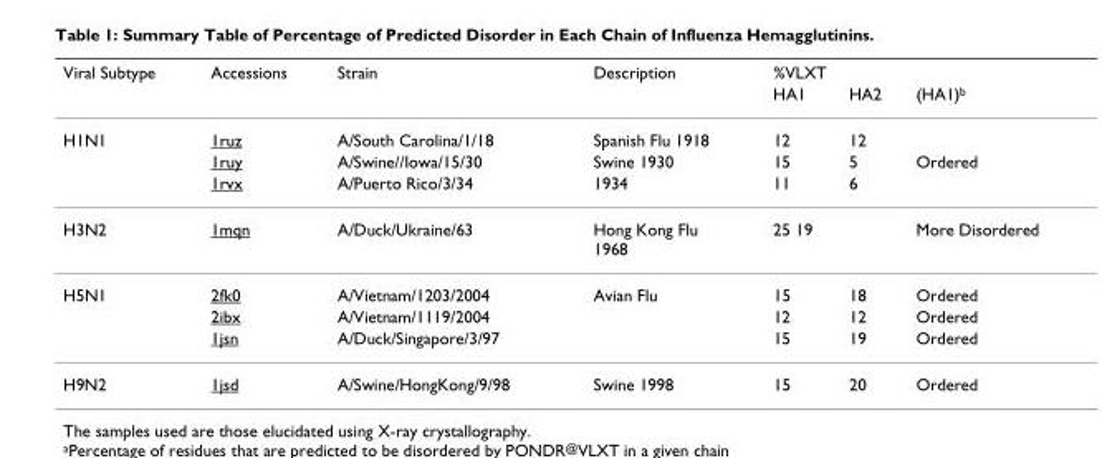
<table><thead><tr><td rowspan="2">Viral Subtype</td><td rowspan="2">Accessions</td><td rowspan="2">Strain</td><td rowspan="2">Description</td><td colspan="2">%VLXT</td><td rowspan="2">(HA1)<sup>b</sup></td></tr><tr><td>HA1</td><td>HA2</td></tr></thead><tbody><tr><td rowspan="3">H1N1</td><td>1ruz</td><td>A/South Carolina/1/18</td><td>Spanish Flu 1918</td><td>12</td><td>12</td><td></td></tr><tr><td>1ruy</td><td>A/Swine//Iowa/15/30</td><td>Swine 1930</td><td>15</td><td>5</td><td>Ordered</td></tr><tr><td>1rvx</td><td>A/Puerto Rico/3/34</td><td>1934</td><td>11</td><td>6</td><td></td></tr><tr><td>H3N2</td><td>1mqn</td><td>A/Duck/Ukraine/63</td><td>Hong Kong Flu 1968</td><td>25 19</td><td></td><td>More Disordered</td></tr><tr><td rowspan="3">H5N1</td><td>2fk0</td><td>A/Vietnam/1203/2004</td><td>Avian Flu</td><td>15</td><td>18</td><td>Ordered</td></tr><tr><td>2ibx</td><td>A/Vietnam/1119/2004</td><td></td><td>12</td><td>12</td><td>Ordered</td></tr><tr><td>1jsn</td><td>A/Duck/Singapore/3/97</td><td></td><td>15</td><td>19</td><td>Ordered</td></tr><tr><td>H9N2</td><td>1jsd</td><td>A/Swine/HongKong/9/98</td><td>Swine 1998</td><td>15</td><td>20</td><td>Ordered</td></tr></tbody></table>